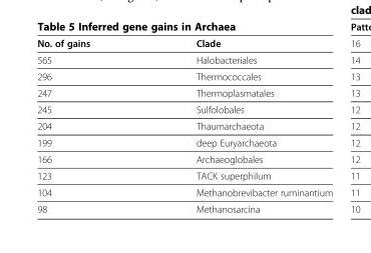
<table><thead><tr><td>No. of gains</td><td>Clade</td></tr></thead><tbody><tr><td>565</td><td>Halobacteriales</td></tr><tr><td>296</td><td>Thermococcales</td></tr><tr><td>247</td><td>Thermoplasmatales</td></tr><tr><td>245</td><td>Sulfolobales</td></tr><tr><td>204</td><td>Thaumarchaeota</td></tr><tr><td>199</td><td>deep Euryarchaeota</td></tr><tr><td>166</td><td>Archaeoglobales</td></tr><tr><td>123</td><td>TACK superphilum</td></tr><tr><td>104</td><td>Methanobrevibacter ruminantium</td></tr><tr><td>98</td><td>Methanosarcina</td></tr></tbody></table>